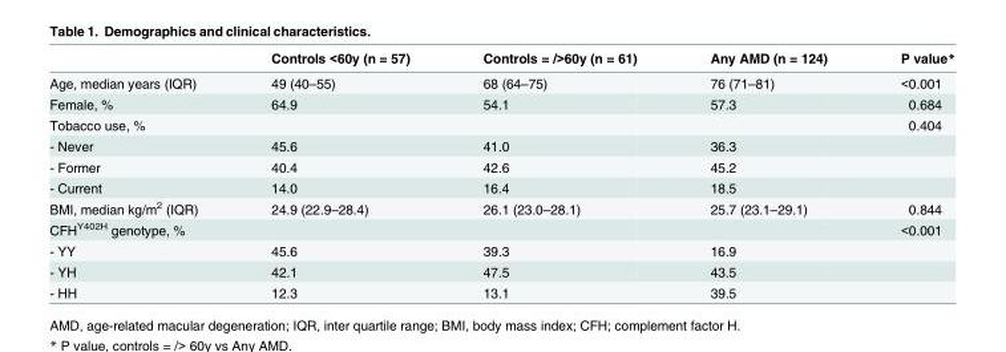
<table><thead><tr><td></td><td>Controls &lt;60y (n = 57)</td><td>Controls = /&gt;60y (n = 61)</td><td>Any AMD (n = 124)</td><td>P value*</td></tr></thead><tbody><tr><td>Age, median years (IQR)</td><td>49 (40–55)</td><td>68 (64–75)</td><td>76 (71–81)</td><td>&lt;0.001</td></tr><tr><td>Female, %</td><td>64.9</td><td>54.1</td><td>57.3</td><td>0.684</td></tr><tr><td>Tobacco use, %</td><td></td><td></td><td></td><td>0.404</td></tr><tr><td>- Never</td><td>45.6</td><td>41.0</td><td>36.3</td><td></td></tr><tr><td>- Former</td><td>40.4</td><td>42.6</td><td>45.2</td><td></td></tr><tr><td>- Current</td><td>14.0</td><td>16.4</td><td>18.5</td><td></td></tr><tr><td>BMI, median kg/m<sup>2</sup> (IQR)</td><td>24.9 (22.9–28.4)</td><td>26.1 (23.0–28.1)</td><td>25.7 (23.1–29.1)</td><td>0.844</td></tr><tr><td>CFH<sup>Y402H</sup> genotype, %</td><td></td><td></td><td></td><td>&lt;0.001</td></tr><tr><td>- YY</td><td>45.6</td><td>39.3</td><td>16.9</td><td></td></tr><tr><td>- YH</td><td>42.1</td><td>47.5</td><td>43.5</td><td></td></tr><tr><td>- HH</td><td>12.3</td><td>13.1</td><td>39.5</td><td></td></tr></tbody></table>